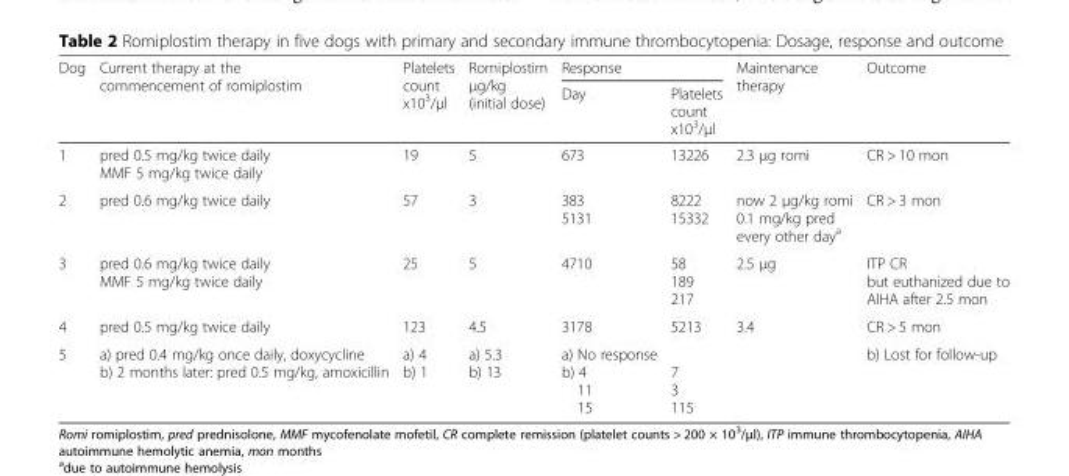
<table><thead><tr><td rowspan="2">Dog</td><td rowspan="2">Current therapy at the commencement of romiplostim</td><td rowspan="2">Platelets count x10<sup>3</sup>/μl</td><td rowspan="2">Romiplostim μg/kg (initial dose)</td><td colspan="2">Response</td><td rowspan="2">Maintenance therapy</td><td rowspan="2">Outcome</td></tr><tr><td>Day</td><td>Platelets count x10<sup>3</sup>/μl</td></tr></thead><tbody><tr><td>1</td><td>pred 0.5 mg/kg twice daily MMF 5 mg/kg twice daily</td><td>19</td><td>5</td><td>673</td><td>13226</td><td>2.3 μg romi</td><td>CR &gt; 10 mon</td></tr><tr><td>2</td><td>pred 0.6 mg/kg twice daily</td><td>57</td><td>3</td><td>383 5131</td><td>8222 15332</td><td>now 2 μg/kg romi 0.1 mg/kg pred every other day<sup>a</sup></td><td>CR &gt; 3 mon</td></tr><tr><td>3</td><td>pred 0.6 mg/kg twice daily MMF 5 mg/kg twice daily</td><td>25</td><td>5</td><td>4710</td><td>58 189 217</td><td>2.5 μg</td><td>ITP CR but euthanized due to AIHA after 2.5 mon</td></tr><tr><td>4</td><td>pred 0.5 mg/kg twice daily</td><td>123</td><td>4.5</td><td>3178</td><td>5213</td><td>3.4</td><td>CR &gt; 5 mon</td></tr><tr><td>5</td><td>a) pred 0.4 mg/kg once daily, doxycycline b) 2 months later: pred 0.5 mg/kg, amoxicillin</td><td>a) 4 b) 1</td><td>a) 5.3 b) 13</td><td>a) No response b) 4 11 15</td><td>7 3 115</td><td></td><td>b) Lost for follow-up</td></tr></tbody></table>